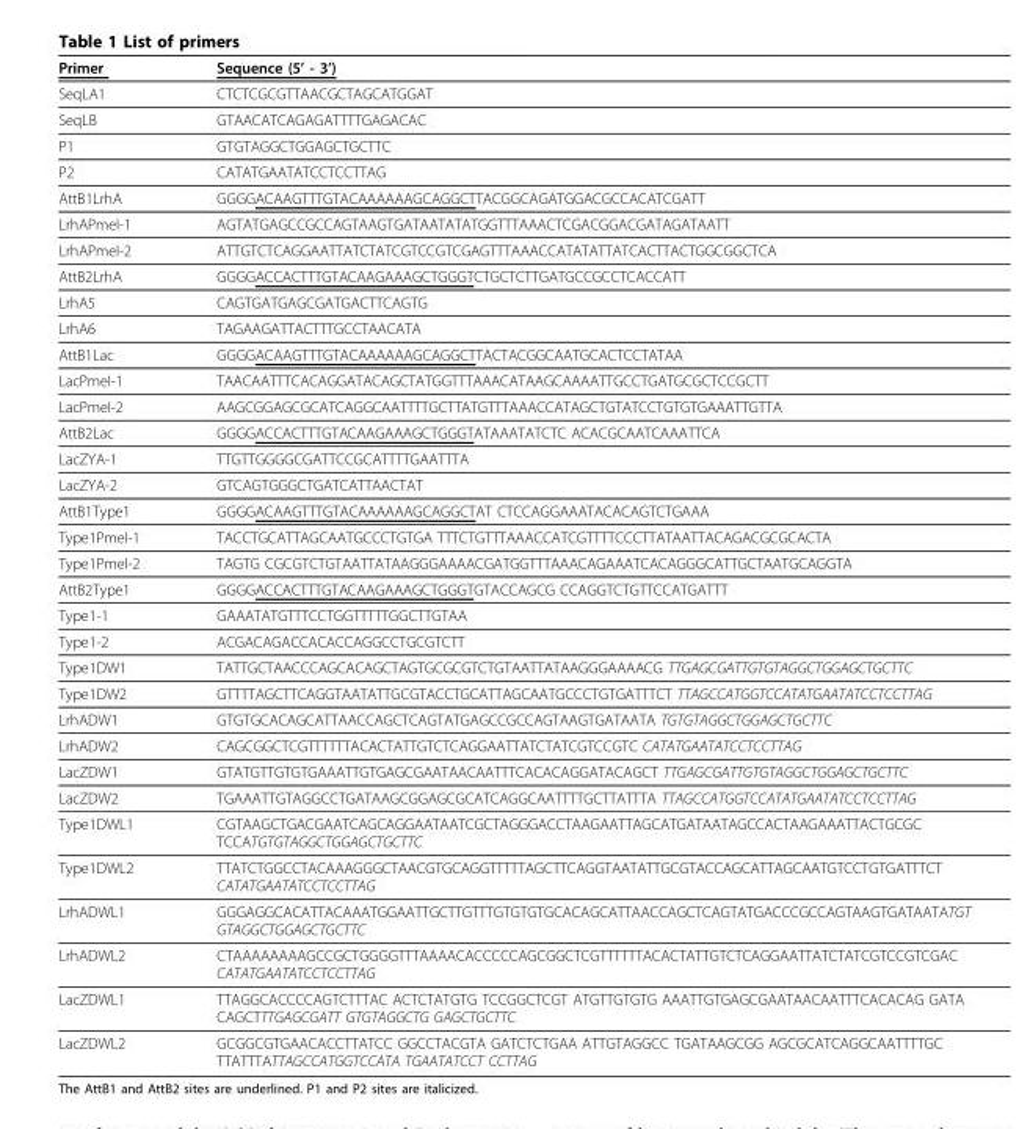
<table><thead><tr><td>Primer</td><td>Sequence (5’ - 3’)</td></tr></thead><tbody><tr><td>SeqLA1</td><td>CTCTCGCGTTAACGCTAGCATGGAT</td></tr><tr><td>SeqLB</td><td>GTAACATCAGAGATTTTGAGACAC</td></tr><tr><td>P1</td><td>GTGTAGGCTGGAGCTGCTTC</td></tr><tr><td>P2</td><td>CATATGAATATCCTCCTTAG</td></tr><tr><td>AttB1LrhA</td><td>GGGGACAAGTTTGTACAAAAAAGCAGGCTTACGGCAGATGGACGCCACATCGATT</td></tr><tr><td>LrhAPmeI-1</td><td>AGTATGAGCCGCCAGTAAGTGATAATATATGGTTTAAACTCGACGGACGATAGATAATT</td></tr><tr><td>LrhAPmeI-2</td><td>ATTGTCTCAGGAATTATCTATCGTCCGTCGAGTTTAAACCATATATTATCACTTACTGGCGGCTCA</td></tr><tr><td>AttB2LrhA</td><td>GGGGACCACTTTGTACAAGAAAGCTGGGTCTGCTCTTGATGCCGCCTCACCATT</td></tr><tr><td>LrhA5</td><td>CAGTGATGAGCGATGACTTCAGTG</td></tr><tr><td>LrhA6</td><td>TAGAAGATTACTTTGCCTAACATA</td></tr><tr><td>AttB1Lac</td><td>GGGGACAAGTTTGTACAAAAAAGCAGGCTTACTACGGCAATGCACTCCTATAA</td></tr><tr><td>LacPmeI-1</td><td>TAACAATTTCACAGGATACAGCTATGGTTTAAACATAAGCAAAATTGCCTGATGCGCTCCGCTT</td></tr><tr><td>LacPmeI-2</td><td>AAGCGGAGCGCATCAGGCAATTTTGCTTATGTTTAAACCATAGCTGTATCCTGTGTGAAATTGTTA</td></tr><tr><td>AttB2Lac</td><td>GGGGACCACTTTGTACAAGAAAGCTGGGTATAAATATCTC ACACGCAATCAAATTCA</td></tr><tr><td>LacZYA-1</td><td>TTGTTGGGGCGATTCCGCATTTTGAATTTA</td></tr><tr><td>LacZYA-2</td><td>GTCAGTGGGCTGATCATTAACTAT</td></tr><tr><td>AttB1Type1</td><td>GGGGACAAGTTTGTACAAAAAAGCAGGCTAT CTCCAGGAAATACACAGTCTGAAA</td></tr><tr><td>Type1PmeI-1</td><td>TACCTGCATTAGCAATGCCCTGTGA TTTCTGTTTAAACCATCGTTTTCCCTTATAATTACAGACGCGCACTA</td></tr><tr><td>Type1PmeI-2</td><td>TAGTG CGCGTCTGTAATTATAAGGGAAAACGATGGTTTAAACAGAAATCACAGGGCATTGCTAATGCAGGTA</td></tr><tr><td>AttB2Type1</td><td>GGGGACCACTTTGTACAAGAAAGCTGGGTGTACCAGCG CCAGGTCTGTTCCATGATTT</td></tr><tr><td>Type1-1</td><td>GAAATATGTTTCCTGGTTTTTGGCTTGTAA</td></tr><tr><td>Type1-2</td><td>ACGACAGACCACACCAGGCCTGCGTCTT</td></tr><tr><td>Type1DW1</td><td>TATTGCTAACCCAGCACAGCTAGTGCGCGTCTGTAATTATAAGGGAAAACG TTGAGCGATTGTGTAGGCTGGAGCTGCTTC</td></tr><tr><td>Type1DW2</td><td>GTTTTAGCTTCAGGTAATATTGCGTACCTGCATTAGCAATGCCCTGTGATTTCT TTAGCCATGGTCCATATGAATATCCTCCTTAG</td></tr><tr><td>LrhADW1</td><td>GTGTGCACAGCATTAACCAGCTCAGTATGAGCCGCCAGTAAGTGATAATA TGTGTAGGCTGGAGCTGCTTC</td></tr><tr><td>LrhADW2</td><td>CAGCGGCTCGTTTTTTACACTATTGTCTCAGGAATTATCTATCGTCCGTC CATATGAATATCCTCCTTAG</td></tr><tr><td>LacZDW1</td><td>GTATGTTGTGTGAAATTGTGAGCGAATAACAATTTCACACAGGATACAGCT TTGAGCGATTGTGTAGGCTGGAGCTGCTTC</td></tr><tr><td>LacZDW2</td><td>TGAAATTGTAGGCCTGATAAGCGGAGCGCATCAGGCAATTTTGCTTATTTA TTAGCCATGGTCCATATGAATATCCTCCTTAG</td></tr><tr><td>Type1DWL1</td><td>CGTAAGCTGACGAATCAGCAGGAATAATCGCTAGGGACCTAAGAATTAGCATGATAATAGCCACTAAGAAATTACTGCGC TCCATGTGTAGGCTGGAGCTGCTTC</td></tr><tr><td>Type1DWL2</td><td>TTATCTGGCCTACAAAGGGCTAACGTGCAGGTTTTTAGCTTCAGGTAATATTGCGTACCAGCATTAGCAATGTCCTGTGATTTCT CATATGAATATCCTCCTTAG</td></tr><tr><td>LrhADWL1</td><td>GGGAGGCACATTACAAATGGAATTGCTTGTTTGTGTGTGCACAGCATTAACCAGCTCAGTATGACCCGCCAGTAAGTGATAATATGT GTAGGCTGGAGCTGCTTC</td></tr><tr><td>LrhADWL2</td><td>CTAAAAAAAAGCCGCTGGGGTTTAAAACACCCCCAGCGGCTCGTTTTTTACACTATTGTCTCAGGAATTATCTATCGTCCGTCGAC CATATGAATATCCTCCTTAG</td></tr><tr><td>LacZDWL1</td><td>TTAGGCACCCCAGTCTTTAC ACTCTATGTG TCCGGCTCGT ATGTTGTGTG AAATTGTGAGCGAATAACAATTTCACACAG GATA CAGCTTTGAGCGATT GTGTAGGCTG GAGCTGCTTC</td></tr><tr><td>LacZDWL2</td><td>GCGGCGTGAACACCTTATCC GGCCTACGTA GATCTCTGAA ATTGTAGGCC TGATAAGCGG AGCGCATCAGGCAATTTTGC TTATTTATTAGCCATGGTCCATA TGAATATCCT CCTTAG</td></tr></tbody></table>